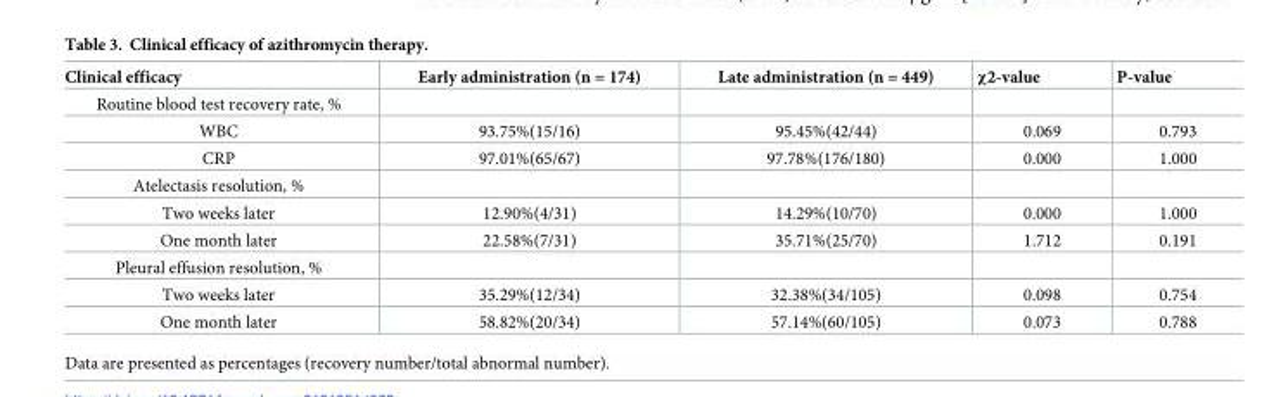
<table><thead><tr><td>Clinical efficacy</td><td>Early administration (n = 174)</td><td>Late administration (n = 449)</td><td>χ2-value</td><td>P-value</td></tr></thead><tbody><tr><td colspan="5">Routine blood test recovery rate, %</td></tr><tr><td>WBC</td><td>93.75%(15/16)</td><td>95.45%(42/44)</td><td>0.069</td><td>0.793</td></tr><tr><td>CRP</td><td>97.01%(65/67)</td><td>97.78%(176/180)</td><td>0.000</td><td>1.000</td></tr><tr><td colspan="5">Atelectasis resolution, %</td></tr><tr><td>Two weeks later</td><td>12.90%(4/31)</td><td>14.29%(10/70)</td><td>0.000</td><td>1.000</td></tr><tr><td>One month later</td><td>22.58%(7/31)</td><td>35.71%(25/70)</td><td>1.712</td><td>0.191</td></tr><tr><td colspan="5">Pleural effusion resolution, %</td></tr><tr><td>Two weeks later</td><td>35.29%(12/34)</td><td>32.38%(34/105)</td><td>0.098</td><td>0.754</td></tr><tr><td>One month later</td><td>58.82%(20/34)</td><td>57.14%(60/105)</td><td>0.073</td><td>0.788</td></tr></tbody></table>